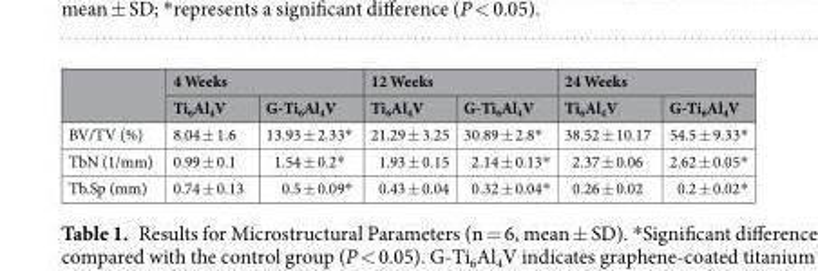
<table><thead><tr><td rowspan="2"></td><td colspan="2">4 Weeks</td><td colspan="2">12 Weeks</td><td colspan="2">24 Weeks</td></tr><tr><td>Ti<sub>6</sub>Al<sub>4</sub>V</td><td>G-Ti<sub>6</sub>Al<sub>4</sub>V</td><td>Ti<sub>6</sub>Al<sub>4</sub>V</td><td>G-Ti<sub>6</sub>Al<sub>4</sub>V</td><td>Ti<sub>6</sub>Al<sub>4</sub>V</td><td>G-Ti<sub>6</sub>Al<sub>4</sub>V</td></tr></thead><tbody><tr><td>BV/TV (%)</td><td>8.04 ± 1.6</td><td>13.93 ± 2.33*</td><td>21.29 ± 3.25</td><td>30.89 ± 2.8*</td><td>38.52 ± 10.17</td><td>54.5 ± 9.33*</td></tr><tr><td>TbN (1/mm)</td><td>0.99 ± 0.1</td><td>1.54 ± 0.2*</td><td>1.93 ± 0.15</td><td>2.14 ± 0.13*</td><td>2.37 ± 0.06</td><td>2.62 ± 0.05*</td></tr><tr><td>Tb.Sp (mm)</td><td>0.74 ± 0.13</td><td>0.5 ± 0.09*</td><td>0.43 ± 0.04</td><td>0.32 ± 0.04*</td><td>0.26 ± 0.02</td><td>0.2 ± 0.02*</td></tr></tbody></table>